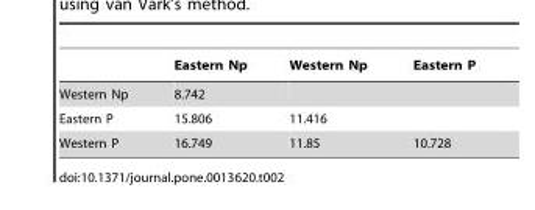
<table><thead><tr><td></td><td>Eastern Np</td><td>Western Np</td><td>Eastern P</td></tr></thead><tbody><tr><td>Western Np</td><td>8.742</td><td></td><td></td></tr><tr><td>Eastern P</td><td>15.806</td><td>11.416</td><td></td></tr><tr><td>Western P</td><td>16.749</td><td>11.85</td><td>10.728</td></tr></tbody></table>